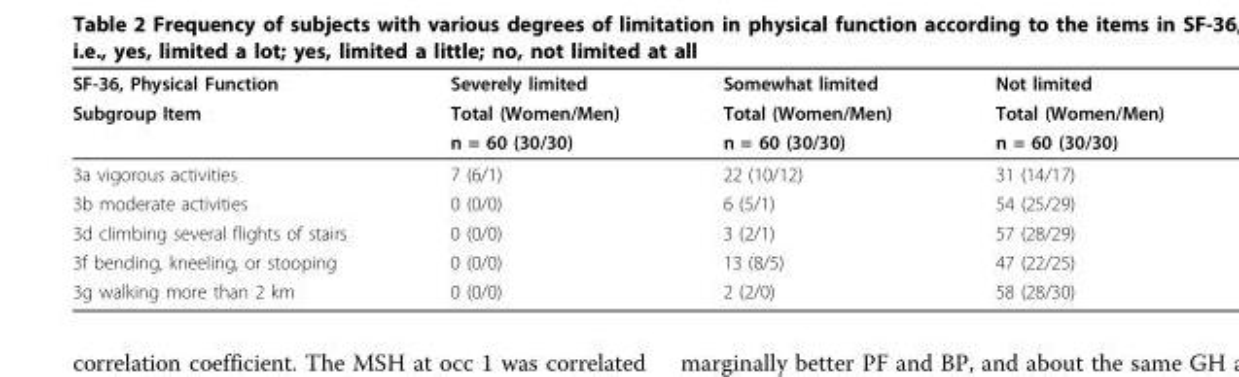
<table><thead><tr><td rowspan="3">SF-36, Physical Function Subgroup Item</td><td rowspan="3">Severely limited Total (Women/Men) n = 60 (30/30)</td><td rowspan="3">Somewhat limited Total (Women/Men) n = 60 (30/30)</td><td rowspan="3">Not limited Total (Women/Men) n = 60 (30/30)</td></tr><tr></tr><tr></tr></thead><tbody><tr><td>3a vigorous activities</td><td>7 (6/1)</td><td>22 (10/12)</td><td>31 (14/17)</td></tr><tr><td>3b moderate activities</td><td>0 (0/0)</td><td>6 (5/1)</td><td>54 (25/29)</td></tr><tr><td>3d climbing several flights of stairs</td><td>0 (0/0)</td><td>3 (2/1)</td><td>57 (28/29)</td></tr><tr><td>3f bending, kneeling, or stooping</td><td>0 (0/0)</td><td>13 (8/5)</td><td>47 (22/25)</td></tr><tr><td>3g walking more than 2 km</td><td>0 (0/0)</td><td>2 (2/0)</td><td>58 (28/30)</td></tr></tbody></table>